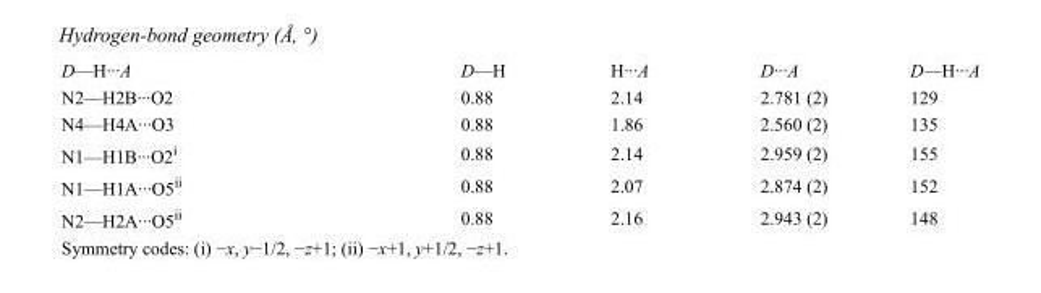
<table><tbody><tr><td>D—H···A</td><td>D—H</td><td>H···A</td><td>D···A</td><td>D—H···A</td></tr><tr><td>N2—H2B···O2</td><td>0.88</td><td>2.14</td><td>2.781 (2)</td><td>129</td></tr><tr><td>N4—H4A···O3</td><td>0.88</td><td>1.86</td><td>2.560 (2)</td><td>135</td></tr><tr><td>N1—H1B···O2<sup>i</sup></td><td>0.88</td><td>2.14</td><td>2.959 (2)</td><td>155</td></tr><tr><td>N1—H1A···O5<sup>ii</sup></td><td>0.88</td><td>2.07</td><td>2.874 (2)</td><td>152</td></tr><tr><td>N2—H2A···O5<sup>ii</sup></td><td>0.88</td><td>2.16</td><td>2.943 (2)</td><td>148</td></tr></tbody></table>